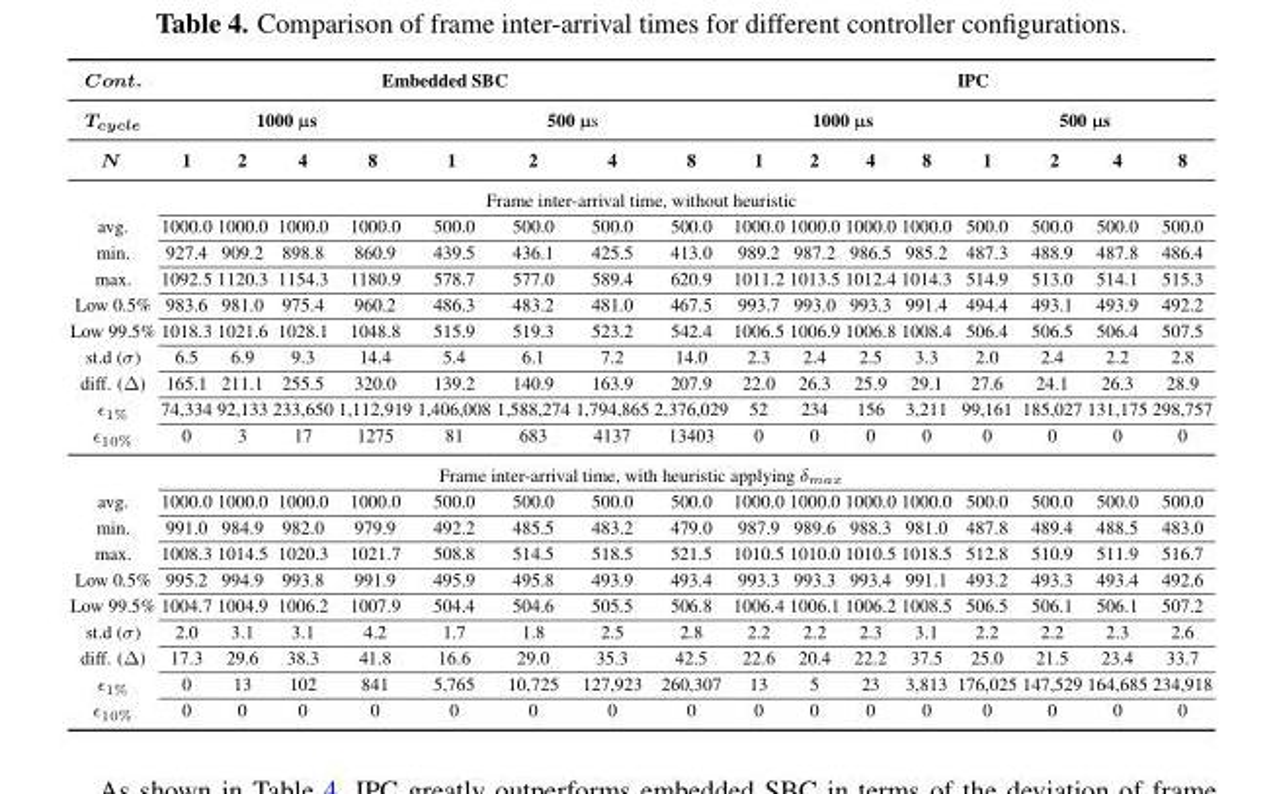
<table><thead><tr><td rowspan="3">Cont. Tcycle N</td><td colspan="8">Embedded SBC</td><td colspan="8">IPC</td></tr><tr><td colspan="4">1000 µs</td><td colspan="4">500 µs</td><td colspan="4">1000 µs</td><td colspan="4">500 µs</td></tr><tr><td>1</td><td>2</td><td>4</td><td>8</td><td>1</td><td>2</td><td>4</td><td>8</td><td>1</td><td>2</td><td>4</td><td>8</td><td>1</td><td>2</td><td>4</td><td>8</td></tr></thead><tbody><tr><td colspan="17">Frame inter-arrival time, without heuristic</td></tr><tr><td>avg.</td><td>1000.0</td><td>1000.0</td><td>1000.0</td><td>1000.0</td><td>500.0</td><td>500.0</td><td>500.0</td><td>500.0</td><td>1000.0</td><td>1000.0</td><td>1000.0</td><td>1000.0</td><td>500.0</td><td>500.0</td><td>500.0</td><td>500.0</td></tr><tr><td>min.</td><td>927.4</td><td>909.2</td><td>898.8</td><td>860.9</td><td>439.5</td><td>436.1</td><td>425.5</td><td>413.0</td><td>989.2</td><td>987.2</td><td>986.5</td><td>985.2</td><td>487.3</td><td>488.9</td><td>487.8</td><td>486.4</td></tr><tr><td>max.</td><td>1092.5</td><td>1120.3</td><td>1154.3</td><td>1180.9</td><td>578.7</td><td>577.0</td><td>589.4</td><td>620.9</td><td>1011.2</td><td>1013.5</td><td>1012.4</td><td>1014.3</td><td>514.9</td><td>513.0</td><td>514.1</td><td>515.3</td></tr><tr><td>Low 0.5%</td><td>983.6</td><td>981.0</td><td>975.4</td><td>960.2</td><td>486.3</td><td>483.2</td><td>481.0</td><td>467.5</td><td>993.7</td><td>993.0</td><td>993.3</td><td>991.4</td><td>494.4</td><td>493.1</td><td>493.9</td><td>492.2</td></tr><tr><td>Low 99.5%</td><td>1018.3</td><td>1021.6</td><td>1028.1</td><td>1048.8</td><td>515.9</td><td>519.3</td><td>523.2</td><td>542.4</td><td>1006.5</td><td>1006.9</td><td>1006.8</td><td>1008.4</td><td>506.4</td><td>506.5</td><td>506.4</td><td>507.5</td></tr><tr><td>st.d (σ)</td><td>6.5</td><td>6.9</td><td>9.3</td><td>14.4</td><td>5.4</td><td>6.1</td><td>7.2</td><td>14.0</td><td>2.3</td><td>2.4</td><td>2.5</td><td>3.3</td><td>2.0</td><td>2.4</td><td>2.2</td><td>2.8</td></tr><tr><td>diff. (∆)</td><td>165.1</td><td>211.1</td><td>255.5</td><td>320.0</td><td>139.2</td><td>140.9</td><td>163.9</td><td>207.9</td><td>22.0</td><td>26.3</td><td>25.9</td><td>29.1</td><td>27.6</td><td>24.1</td><td>26.3</td><td>28.9</td></tr><tr><td>ϵ1%</td><td>74,334</td><td>92,133</td><td>233,650</td><td>1,112,919</td><td>1,406,008</td><td>1,588,274</td><td>1,794,865</td><td>2,376,029</td><td>52</td><td>234</td><td>156</td><td>3,211</td><td>99,161</td><td>185,027</td><td>131,175</td><td>298,757</td></tr><tr><td>ϵ10%</td><td>0</td><td>3</td><td>17</td><td>1275</td><td>81</td><td>683</td><td>4137</td><td>13403</td><td>0</td><td>0</td><td>0</td><td>0</td><td>0</td><td>0</td><td>0</td><td>0</td></tr><tr><td colspan="17">Frame inter-arrival time, with heuristic applying δmax</td></tr><tr><td>avg.</td><td>1000.0</td><td>1000.0</td><td>1000.0</td><td>1000.0</td><td>500.0</td><td>500.0</td><td>500.0</td><td>500.0</td><td>1000.0</td><td>1000.0</td><td>1000.0</td><td>1000.0</td><td>500.0</td><td>500.0</td><td>500.0</td><td>500.0</td></tr><tr><td>min.</td><td>991.0</td><td>984.9</td><td>982.0</td><td>979.9</td><td>492.2</td><td>485.5</td><td>483.2</td><td>479.0</td><td>987.9</td><td>989.6</td><td>988.3</td><td>981.0</td><td>487.8</td><td>489.4</td><td>488.5</td><td>483.0</td></tr><tr><td>max.</td><td>1008.3</td><td>1014.5</td><td>1020.3</td><td>1021.7</td><td>508.8</td><td>514.5</td><td>518.5</td><td>521.5</td><td>1010.5</td><td>1010.0</td><td>1010.5</td><td>1018.5</td><td>512.8</td><td>510.9</td><td>511.9</td><td>516.7</td></tr><tr><td>Low 0.5%</td><td>995.2</td><td>994.9</td><td>993.8</td><td>991.9</td><td>495.9</td><td>495.8</td><td>493.9</td><td>493.4</td><td>993.3</td><td>993.3</td><td>993.4</td><td>991.1</td><td>493.2</td><td>493.3</td><td>493.4</td><td>492.6</td></tr><tr><td>Low 99.5%</td><td>1004.7</td><td>1004.9</td><td>1006.2</td><td>1007.9</td><td>504.4</td><td>504.6</td><td>505.5</td><td>506.8</td><td>1006.4</td><td>1006.1</td><td>1006.2</td><td>1008.5</td><td>506.5</td><td>506.1</td><td>506.1</td><td>507.2</td></tr><tr><td>st.d (σ)</td><td>2.0</td><td>3.1</td><td>3.1</td><td>4.2</td><td>1.7</td><td>1.8</td><td>2.5</td><td>2.8</td><td>2.2</td><td>2.2</td><td>2.3</td><td>3.1</td><td>2.2</td><td>2.2</td><td>2.3</td><td>2.6</td></tr><tr><td>diff. (∆)</td><td>17.3</td><td>29.6</td><td>38.3</td><td>41.8</td><td>16.6</td><td>29.0</td><td>35.3</td><td>42.5</td><td>22.6</td><td>20.4</td><td>22.2</td><td>37.5</td><td>25.0</td><td>21.5</td><td>23.4</td><td>33.7</td></tr><tr><td>ϵ1%</td><td>0</td><td>13</td><td>102</td><td>841</td><td>5,765</td><td>10,725</td><td>127,923</td><td>260,307</td><td>13</td><td>5</td><td>23</td><td>3,813</td><td>176,025</td><td>147,529</td><td>164,685</td><td>234,918</td></tr><tr><td>ϵ10%</td><td>0</td><td>0</td><td>0</td><td>0</td><td>0</td><td>0</td><td>0</td><td>0</td><td>0</td><td>0</td><td>0</td><td>0</td><td>0</td><td>0</td><td>0</td><td>0</td></tr></tbody></table>